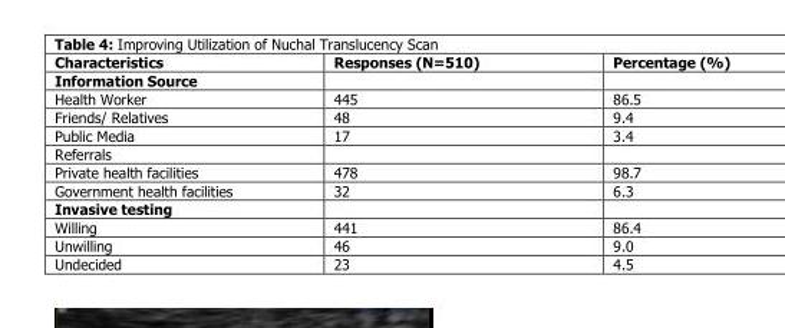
<table><thead><tr><td>Characteristics</td><td>Responses (N=510)</td><td>Percentage (%)</td></tr></thead><tbody><tr><td colspan="3">Information Source</td></tr><tr><td>Health Worker</td><td>445</td><td>86.5</td></tr><tr><td>Friends/ Relatives</td><td>48</td><td>9.4</td></tr><tr><td>Public Media</td><td>17</td><td>3.4</td></tr><tr><td colspan="3">Referrals</td></tr><tr><td>Private health facilities</td><td>478</td><td>98.7</td></tr><tr><td>Government health facilities</td><td>32</td><td>6.3</td></tr><tr><td colspan="3">Invasive testing</td></tr><tr><td>Willing</td><td>441</td><td>86.4</td></tr><tr><td>Unwilling</td><td>46</td><td>9.0</td></tr><tr><td>Undecided</td><td>23</td><td>4.5</td></tr></tbody></table>